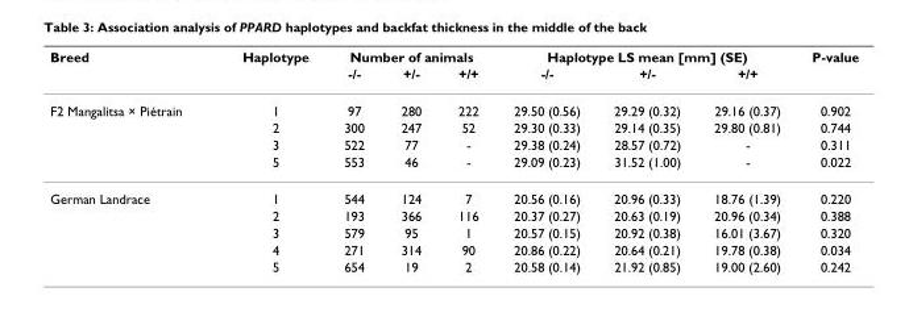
<table><thead><tr><td rowspan="2">Breed</td><td rowspan="2">Haplotype</td><td colspan="3">Number of animals</td><td colspan="3">Haplotype LS mean [mm] (SE)</td><td rowspan="2">P-value</td></tr><tr><td>-/-</td><td>+/-</td><td>+/+</td><td>-/-</td><td>+/-</td><td>+/+</td></tr></thead><tbody><tr><td rowspan="4">F2 Mangalitsa × Piétrain</td><td>1</td><td>97</td><td>280</td><td>222</td><td>29.50 (0.56)</td><td>29.29 (0.32)</td><td>29.16 (0.37)</td><td>0.902</td></tr><tr><td>2</td><td>300</td><td>247</td><td>52</td><td>29.30 (0.33)</td><td>29.14 (0.35)</td><td>29.80 (0.81)</td><td>0.744</td></tr><tr><td>3</td><td>522</td><td>77</td><td>-</td><td>29.38 (0.24)</td><td>28.57 (0.72)</td><td>-</td><td>0.311</td></tr><tr><td>5</td><td>553</td><td>46</td><td>-</td><td>29.09 (0.23)</td><td>31.52 (1.00)</td><td>-</td><td>0.022</td></tr><tr><td rowspan="5">German Landrace</td><td>1</td><td>544</td><td>124</td><td>7</td><td>20.56 (0.16)</td><td>20.96 (0.33)</td><td>18.76 (1.39)</td><td>0.220</td></tr><tr><td>2</td><td>193</td><td>366</td><td>116</td><td>20.37 (0.27)</td><td>20.63 (0.19)</td><td>20.96 (0.34)</td><td>0.388</td></tr><tr><td>3</td><td>579</td><td>95</td><td>1</td><td>20.57 (0.15)</td><td>20.92 (0.38)</td><td>16.01 (3.67)</td><td>0.320</td></tr><tr><td>4</td><td>271</td><td>314</td><td>90</td><td>20.86 (0.22)</td><td>20.64 (0.21)</td><td>19.78 (0.38)</td><td>0.034</td></tr><tr><td>5</td><td>654</td><td>19</td><td>2</td><td>20.58 (0.14)</td><td>21.92 (0.85)</td><td>19.00 (2.60)</td><td>0.242</td></tr></tbody></table>